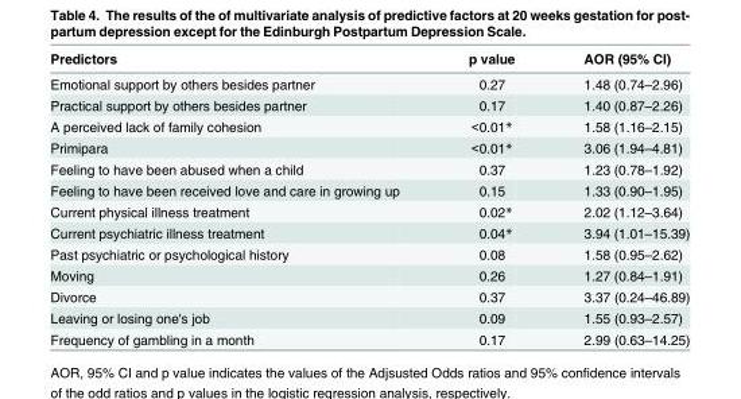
<table><thead><tr><td>Predictors</td><td>p value</td><td>AOR (95% CI)</td></tr></thead><tbody><tr><td>Emotional support by others besides partner</td><td>0.27</td><td>1.48 (0.74–2.96)</td></tr><tr><td>Practical support by others besides partner</td><td>0.17</td><td>1.40 (0.87–2.26)</td></tr><tr><td>A perceived lack of family cohesion</td><td>&lt;0.01*</td><td>1.58 (1.16–2.15)</td></tr><tr><td>Primipara</td><td>&lt;0.01*</td><td>3.06 (1.94–4.81)</td></tr><tr><td>Feeling to have been abused when a child</td><td>0.37</td><td>1.23 (0.78–1.92)</td></tr><tr><td>Feeling to have been received love and care in growing up</td><td>0.15</td><td>1.33 (0.90–1.95)</td></tr><tr><td>Current physical illness treatment</td><td>0.02*</td><td>2.02 (1.12–3.64)</td></tr><tr><td>Current psychiatric illness treatment</td><td>0.04*</td><td>3.94 (1.01–15.39)</td></tr><tr><td>Past psychiatric or psychological history</td><td>0.08</td><td>1.58 (0.95–2.62)</td></tr><tr><td>Moving</td><td>0.26</td><td>1.27 (0.84–1.91)</td></tr><tr><td>Divorce</td><td>0.37</td><td>3.37 (0.24–46.89)</td></tr><tr><td>Leaving or losing one&#x27;s job</td><td>0.09</td><td>1.55 (0.93–2.57)</td></tr><tr><td>Frequency of gambling in a month</td><td>0.17</td><td>2.99 (0.63–14.25)</td></tr></tbody></table>